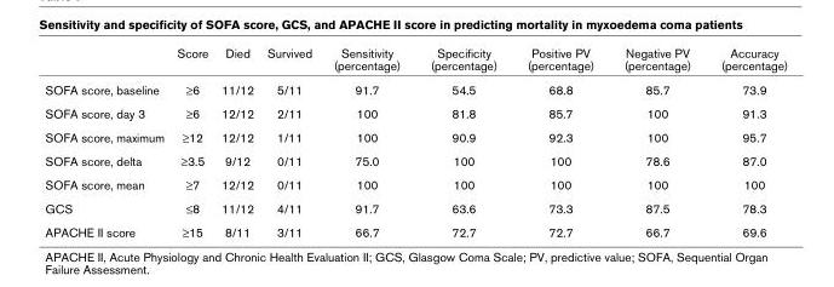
<table><thead><tr><td></td><td>Score</td><td>Died</td><td>Survived</td><td>Sensitivity (percentage)</td><td>Specificity (percentage)</td><td>Positive PV (percentage)</td><td>Negative PV (percentage)</td><td>Accuracy (percentage)</td></tr></thead><tbody><tr><td>SOFA score, baseline</td><td>≥6</td><td>11/12</td><td>5/11</td><td>91.7</td><td>54.5</td><td>68.8</td><td>85.7</td><td>73.9</td></tr><tr><td>SOFA score, day 3</td><td>≥6</td><td>12/12</td><td>2/11</td><td>100</td><td>81.8</td><td>85.7</td><td>100</td><td>91.3</td></tr><tr><td>SOFA score, maximum</td><td>≥12</td><td>12/12</td><td>1/11</td><td>100</td><td>90.9</td><td>92.3</td><td>100</td><td>95.7</td></tr><tr><td>SOFA score, delta</td><td>≥3.5</td><td>9/12</td><td>0/11</td><td>75.0</td><td>100</td><td>100</td><td>78.6</td><td>87.0</td></tr><tr><td>SOFA score, mean</td><td>≥7</td><td>12/12</td><td>0/11</td><td>100</td><td>100</td><td>100</td><td>100</td><td>100</td></tr><tr><td>GCS</td><td>≤8</td><td>11/12</td><td>4/11</td><td>91.7</td><td>63.6</td><td>73.3</td><td>87.5</td><td>78.3</td></tr><tr><td>APACHE II score</td><td>≥15</td><td>8/11</td><td>3/11</td><td>66.7</td><td>72.7</td><td>72.7</td><td>66.7</td><td>69.6</td></tr></tbody></table>